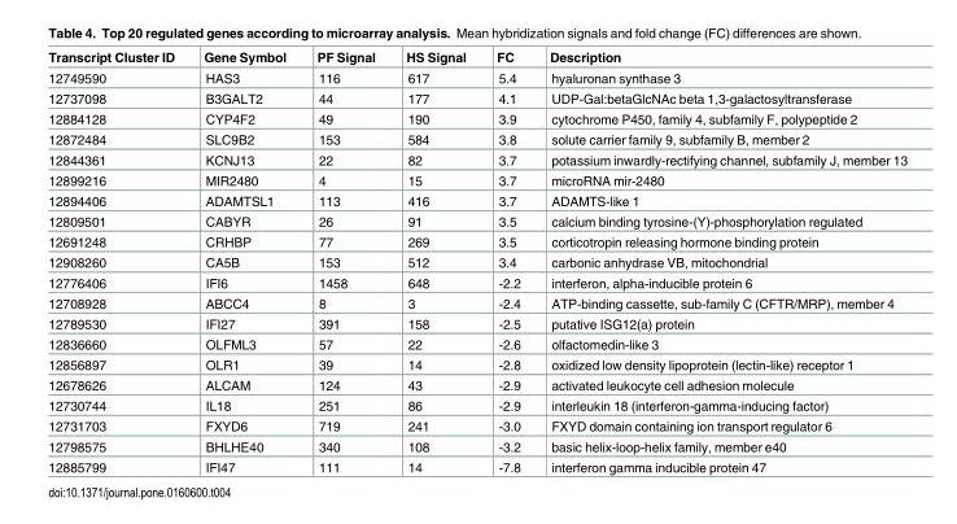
<table><thead><tr><td>Transcript Cluster ID</td><td>Gene Symbol</td><td>PF Signal</td><td>HS Signal</td><td>FC</td><td>Description</td></tr></thead><tbody><tr><td>12749590</td><td>HAS3</td><td>116</td><td>617</td><td>5.4</td><td>hyaluronan synthase 3</td></tr><tr><td>12737098</td><td>B3GALT2</td><td>44</td><td>177</td><td>4.1</td><td>UDP-Gal:betaGlcNAc beta 1,3-galactosyltransferase</td></tr><tr><td>12884128</td><td>CYP4F2</td><td>49</td><td>190</td><td>3.9</td><td>cytochrome P450, family 4, subfamily F, polypeptide 2</td></tr><tr><td>12872484</td><td>SLC9B2</td><td>153</td><td>584</td><td>3.8</td><td>solute carrier family 9, subfamily B, member 2</td></tr><tr><td>12844361</td><td>KCNJ13</td><td>22</td><td>82</td><td>3.7</td><td>potassium inwardly-rectifying channel, subfamily J, member 13</td></tr><tr><td>12899216</td><td>MIR2480</td><td>4</td><td>15</td><td>3.7</td><td>microRNA mir-2480</td></tr><tr><td>12894406</td><td>ADAMTSL1</td><td>113</td><td>416</td><td>3.7</td><td>ADAMTS-like 1</td></tr><tr><td>12809501</td><td>CABYR</td><td>26</td><td>91</td><td>3.5</td><td>calcium binding tyrosine-(Y)-phosphorylation regulated</td></tr><tr><td>12691248</td><td>CRHBP</td><td>77</td><td>269</td><td>3.5</td><td>corticotropin releasing hormone binding protein</td></tr><tr><td>12908260</td><td>CA5B</td><td>153</td><td>512</td><td>3.4</td><td>carbonic anhydrase VB, mitochondrial</td></tr><tr><td>12776406</td><td>IFI6</td><td>1458</td><td>648</td><td>-2.2</td><td>interferon, alpha-inducible protein 6</td></tr><tr><td>12708928</td><td>ABCC4</td><td>8</td><td>3</td><td>-2.4</td><td>ATP-binding cassette, sub-family C (CFTR/MRP), member 4</td></tr><tr><td>12789530</td><td>IFI27</td><td>391</td><td>158</td><td>-2.5</td><td>putative ISG12(a) protein</td></tr><tr><td>12836660</td><td>OLFML3</td><td>57</td><td>22</td><td>-2.6</td><td>olfactomedin-like 3</td></tr><tr><td>12856897</td><td>OLR1</td><td>39</td><td>14</td><td>-2.8</td><td>oxidized low density lipoprotein (lectin-like) receptor 1</td></tr><tr><td>12678626</td><td>ALCAM</td><td>124</td><td>43</td><td>-2.9</td><td>activated leukocyte cell adhesion molecule</td></tr><tr><td>12730744</td><td>IL18</td><td>251</td><td>86</td><td>-2.9</td><td>interleukin 18 (interferon-gamma-inducing factor)</td></tr><tr><td>12731703</td><td>FXYD6</td><td>719</td><td>241</td><td>-3.0</td><td>FXYD domain containing ion transport regulator 6</td></tr><tr><td>12798575</td><td>BHLHE40</td><td>340</td><td>108</td><td>-3.2</td><td>basic helix-loop-helix family, member e40</td></tr><tr><td>12885799</td><td>IFI47</td><td>111</td><td>14</td><td>-7.8</td><td>interferon gamma inducible protein 47</td></tr></tbody></table>